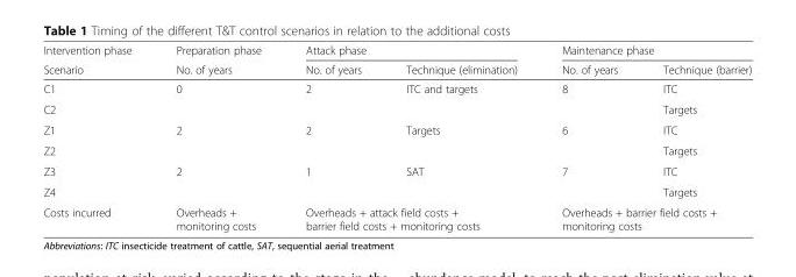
<table><thead><tr><td rowspan="2">Intervention phase Scenario</td><td rowspan="2">Preparation phase No. of years</td><td colspan="2">Attack phase</td><td colspan="2">Maintenance phase</td></tr><tr><td>No. of years</td><td>Technique (elimination)</td><td>No. of years</td><td>Technique (barrier)</td></tr></thead><tbody><tr><td>C1</td><td rowspan="2">0</td><td rowspan="2">2</td><td rowspan="2">ITC and targets</td><td rowspan="2">8</td><td>ITC</td></tr><tr><td>C2</td><td>Targets</td></tr><tr><td>Z1</td><td rowspan="2">2</td><td rowspan="2">2</td><td rowspan="2">Targets</td><td rowspan="2">6</td><td>ITC</td></tr><tr><td>Z2</td><td>Targets</td></tr><tr><td>Z3</td><td rowspan="2">2</td><td rowspan="2">1</td><td rowspan="2">SAT</td><td rowspan="2">7</td><td>ITC</td></tr><tr><td>Z4</td><td>Targets</td></tr><tr><td>Costs incurred</td><td>Overheads + monitoring costs</td><td colspan="2">Overheads + attack field costs + barrier field costs + monitoring costs</td><td colspan="2">Overheads + barrier field costs + monitoring costs</td></tr></tbody></table>